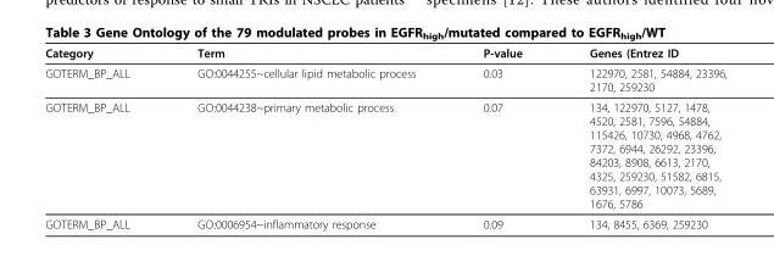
<table><thead><tr><td>Category</td><td>Term</td><td>P-value</td><td>Genes (Entrez ID</td></tr></thead><tbody><tr><td>GOTERM_BP_ALL</td><td>GO:0044255~cellular lipid metabolic process</td><td>0.03</td><td>122970, 2581, 54884, 23396, 2170, 259230</td></tr><tr><td>GOTERM_BP_ALL</td><td>GO:0044238~primary metabolic process</td><td>0.07</td><td>134, 122970, 5127, 1478, 4520, 2581, 7596, 54884, 115426, 10730, 4968, 4762, 7372, 6944, 26292, 23396, 84203, 8908, 6613, 2170, 4325, 259230, 51582, 6815, 63931, 6997, 10073, 5689, 1676, 5786</td></tr><tr><td>GOTERM_BP_ALL</td><td>GO:0006954~inflammatory response</td><td>0.09</td><td>134, 8455, 6369, 259230</td></tr></tbody></table>